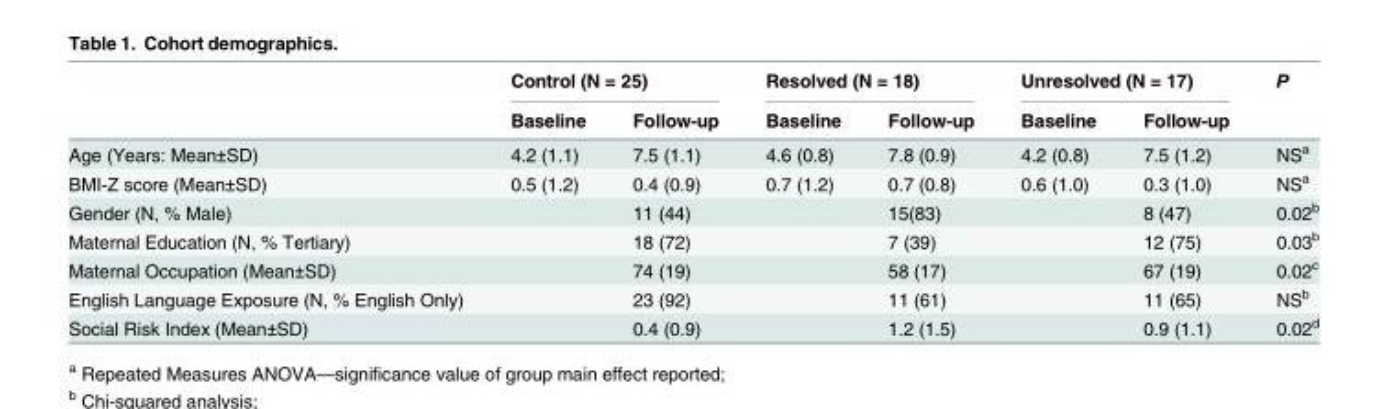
<table><thead><tr><td rowspan="2"></td><td colspan="2">Control (N = 25)</td><td colspan="2">Resolved (N = 18)</td><td colspan="2">Unresolved (N = 17)</td><td rowspan="2">P</td></tr><tr><td>Baseline</td><td>Follow-up</td><td>Baseline</td><td>Follow-up</td><td>Baseline</td><td>Follow-up</td></tr></thead><tbody><tr><td>Age (Years: Mean±SD)</td><td>4.2 (1.1)</td><td>7.5 (1.1)</td><td>4.6 (0.8)</td><td>7.8 (0.9)</td><td>4.2 (0.8)</td><td>7.5 (1.2)</td><td>NS<sup>a</sup></td></tr><tr><td>BMI-Z score (Mean±SD)</td><td>0.5 (1.2)</td><td>0.4 (0.9)</td><td>0.7 (1.2)</td><td>0.7 (0.8)</td><td>0.6 (1.0)</td><td>0.3 (1.0)</td><td>NS<sup>a</sup></td></tr><tr><td>Gender (N, % Male)</td><td></td><td>11 (44)</td><td></td><td>15(83)</td><td></td><td>8 (47)</td><td>0.02<sup>b</sup></td></tr><tr><td>Maternal Education (N, % Tertiary)</td><td></td><td>18 (72)</td><td></td><td>7 (39)</td><td></td><td>12 (75)</td><td>0.03<sup>b</sup></td></tr><tr><td>Maternal Occupation (Mean±SD)</td><td></td><td>74 (19)</td><td></td><td>58 (17)</td><td></td><td>67 (19)</td><td>0.02<sup>c</sup></td></tr><tr><td>English Language Exposure (N, % English Only)</td><td></td><td>23 (92)</td><td></td><td>11 (61)</td><td></td><td>11 (65)</td><td>NS<sup>b</sup></td></tr><tr><td>Social Risk Index (Mean±SD)</td><td></td><td>0.4 (0.9)</td><td></td><td>1.2 (1.5)</td><td></td><td>0.9 (1.1)</td><td>0.02<sup>d</sup></td></tr></tbody></table>